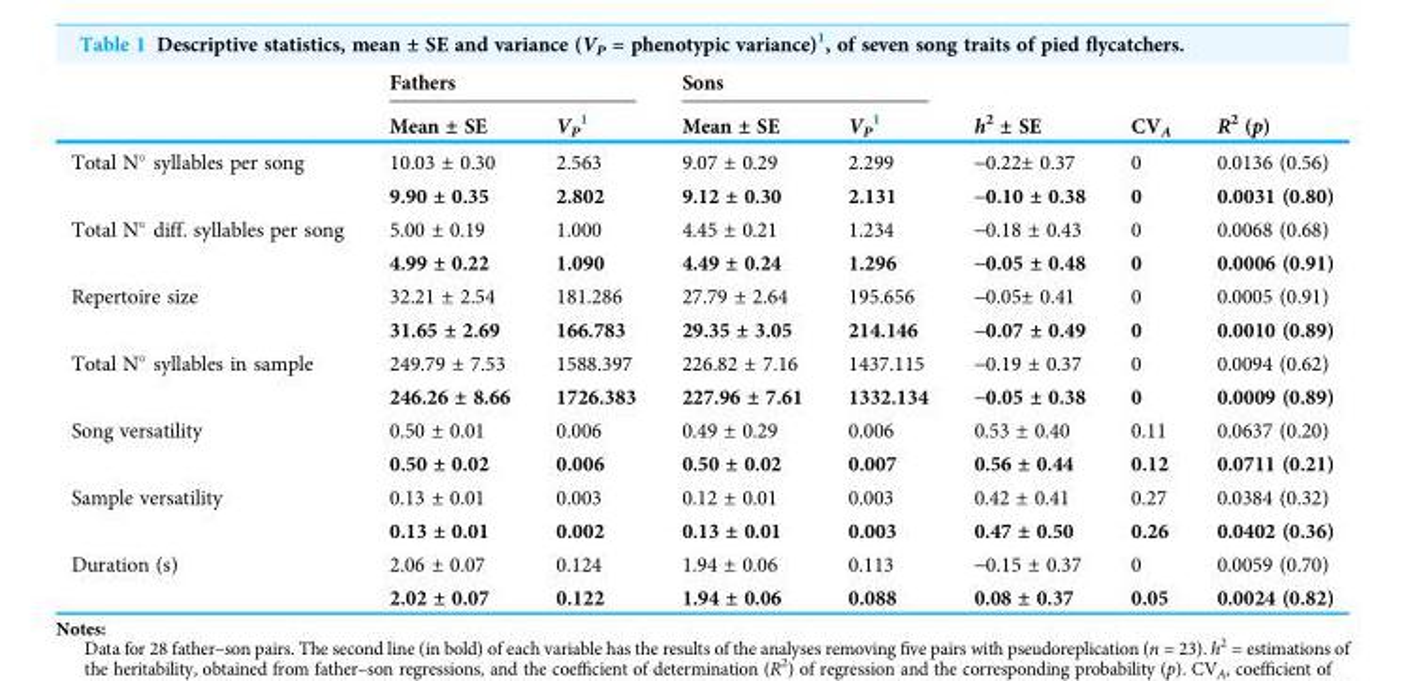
<table><thead><tr><td rowspan="2"></td><td colspan="2">Fathers</td><td colspan="2">Sons</td><td rowspan="2">h<sup>2</sup> ± SE</td><td rowspan="2">CV<sub>A</sub></td><td rowspan="2">R<sup>2</sup> (p)</td></tr><tr><td>Mean ± SE</td><td>V<sub>P</sub> <sup>1</sup></td><td>Mean ± SE</td><td>V<sub>P</sub> <sup>1</sup></td></tr></thead><tbody><tr><td rowspan="2">Total N° syllables per song</td><td>10.03 ± 0.30</td><td>2.563</td><td>9.07 ± 0.29</td><td>2.299</td><td>-0.22± 0.37</td><td>0</td><td>0.0136 (0.56)</td></tr><tr><td>9.90 ± 0.35</td><td>2.802</td><td>9.12 ± 0.30</td><td>2.131</td><td>-0.10 ± 0.38</td><td>0</td><td>0.0031 (0.80)</td></tr><tr><td rowspan="2">Total N° diff. syllables per song</td><td>5.00 ± 0.19</td><td>1.000</td><td>4.45 ± 0.21</td><td>1.234</td><td>-0.18 ± 0.43</td><td>0</td><td>0.0068 (0.68)</td></tr><tr><td>4.99 ± 0.22</td><td>1.090</td><td>4.49 ± 0.24</td><td>1.296</td><td>-0.05 ± 0.48</td><td>0</td><td>0.0006 (0.91)</td></tr><tr><td rowspan="2">Repertoire size</td><td>32.21 ± 2.54</td><td>181.286</td><td>27.79 ± 2.64</td><td>195.656</td><td>-0.05± 0.41</td><td>0</td><td>0.0005 (0.91)</td></tr><tr><td>31.65 ± 2.69</td><td>166.783</td><td>29.35 ± 3.05</td><td>214.146</td><td>-0.07 ± 0.49</td><td>0</td><td>0.0010 (0.89)</td></tr><tr><td rowspan="2">Total N° syllables in sample</td><td>249.79 ± 7.53</td><td>1588.397</td><td>226.82 ± 7.16</td><td>1437.115</td><td>-0.19 ± 0.37</td><td>0</td><td>0.0094 (0.62)</td></tr><tr><td>246.26 ± 8.66</td><td>1726.383</td><td>227.96 ± 7.61</td><td>1332.134</td><td>-0.05 ± 0.38</td><td>0</td><td>0.0009 (0.89)</td></tr><tr><td rowspan="2">Song versatility</td><td>0.50 ± 0.01</td><td>0.006</td><td>0.49 ± 0.29</td><td>0.006</td><td>0.53 ± 0.40</td><td>0.11</td><td>0.0637 (0.20)</td></tr><tr><td>0.50 ± 0.02</td><td>0.006</td><td>0.50 ± 0.02</td><td>0.007</td><td>0.56 ± 0.44</td><td>0.12</td><td>0.0711 (0.21)</td></tr><tr><td rowspan="2">Sample versatility</td><td>0.13 ± 0.01</td><td>0.003</td><td>0.12 ± 0.01</td><td>0.003</td><td>0.42 ± 0.41</td><td>0.27</td><td>0.0384 (0.32)</td></tr><tr><td>0.13 ± 0.01</td><td>0.002</td><td>0.13 ± 0.01</td><td>0.003</td><td>0.47 ± 0.50</td><td>0.26</td><td>0.0402 (0.36)</td></tr><tr><td rowspan="2">Duration (s)</td><td>2.06 ± 0.07</td><td>0.124</td><td>1.94 ± 0.06</td><td>0.113</td><td>-0.15 ± 0.37</td><td>0</td><td>0.0059 (0.70)</td></tr><tr><td>2.02 ± 0.07</td><td>0.122</td><td>1.94 ± 0.06</td><td>0.088</td><td>0.08 ± 0.37</td><td>0.05</td><td>0.0024 (0.82)</td></tr></tbody></table>